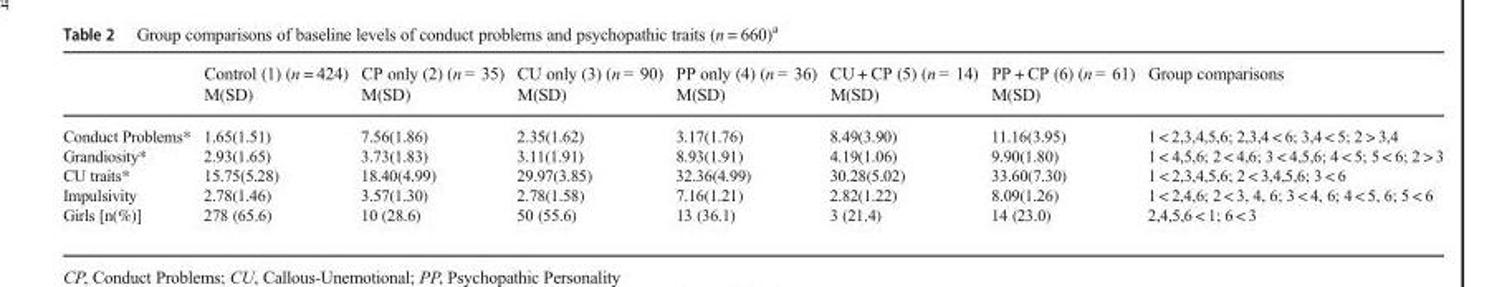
<table><thead><tr><td rowspan="2"></td><td rowspan="2">Control (1) (n = 424) M(SD)</td><td rowspan="2">CP only (2) (n = 35) M(SD)</td><td rowspan="2">CU only (3) (n = 90) M(SD)</td><td rowspan="2">PP only (4) (n = 36) M(SD)</td><td rowspan="2">CU + CP (5) (n = 14) M(SD)</td><td rowspan="2">PP + CP (6) (n = 61) M(SD)</td><td rowspan="2">Group comparisons</td></tr><tr></tr></thead><tbody><tr><td>Conduct Problems*</td><td>1.65(1.51)</td><td>7.56(1.86)</td><td>2.35(1.62)</td><td>3.17(1.76)</td><td>8.49(3.90)</td><td>11.16(3.95)</td><td>1 &lt; 2,3,4,5,6; 2,3,4 &lt; 6; 3,4 &lt; 5; 2 &gt; 3,4</td></tr><tr><td>Grandiosity*</td><td>2.93(1.65)</td><td>3.73(1.83)</td><td>3.11(1.91)</td><td>8.93(1.91)</td><td>4.19(1.06)</td><td>9.90(1.80)</td><td>1 &lt; 4,5,6; 2 &lt; 4,6; 3 &lt; 4,5,6; 4 &lt; 5; 5 &lt; 6; 2 &gt; 3</td></tr><tr><td>CU traits*</td><td>15.75(5.28)</td><td>18.40(4.99)</td><td>29.97(3.85)</td><td>32.36(4.99)</td><td>30.28(5.02)</td><td>33.60(7.30)</td><td>1 &lt; 2,3,4,5,6; 2 &lt; 3,4,5,6; 3 &lt; 6</td></tr><tr><td>Impulsivity</td><td>2.78(1.46)</td><td>3.57(1.30)</td><td>2.78(1.58)</td><td>7.16(1.21)</td><td>2.82(1.22)</td><td>8.09(1.26)</td><td>1 &lt; 2,4,6; 2 &lt; 3, 4, 6; 3 &lt; 4, 6; 4 &lt; 5, 6; 5 &lt; 6</td></tr><tr><td>Girls [n(%)]</td><td>278 (65.6)</td><td>10 (28.6)</td><td>50 (55.6)</td><td>13 (36.1)</td><td>3 (21.4)</td><td>14 (23.0)</td><td>2,4,5,6 &lt; 1; 6 &lt; 3</td></tr></tbody></table>